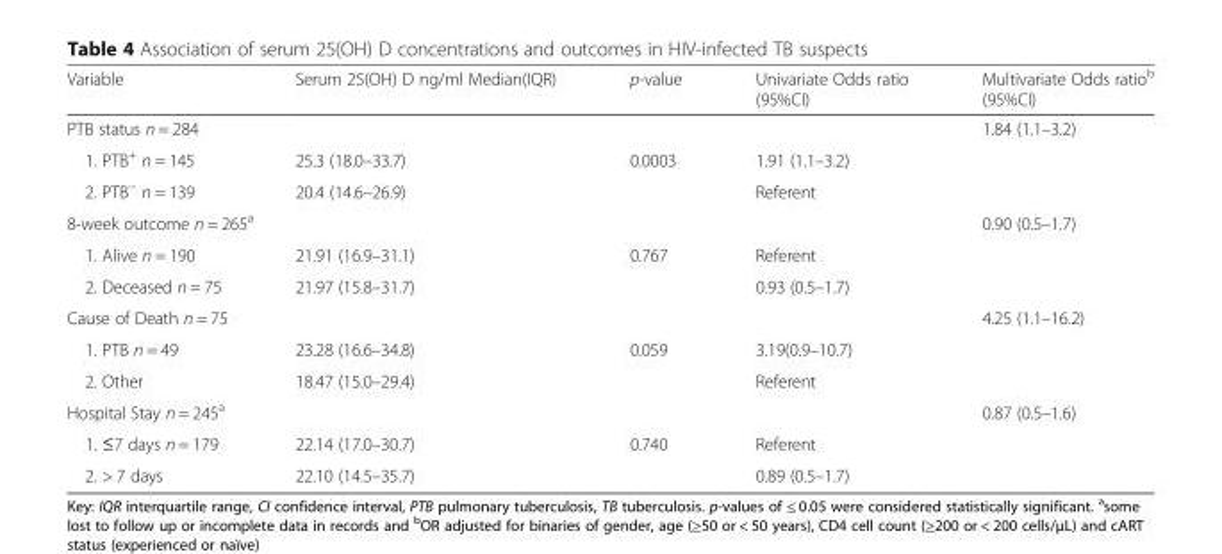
<table><thead><tr><td>Variable</td><td>Serum 25(OH) D ng/ml Median(IQR)</td><td>p-value</td><td>Univariate Odds ratio (95%CI)</td><td>Multivariate Odds ratio<sup>b</sup> (95%CI)</td></tr></thead><tbody><tr><td colspan="4">PTB status n = 284</td><td>1.84 (1.1–3.2)</td></tr><tr><td>1. PTB<sup>+</sup> n = 145</td><td>25.3 (18.0–33.7)</td><td rowspan="2">0.0003</td><td>1.91 (1.1–3.2)</td><td></td></tr><tr><td>2. PTB<sup>−</sup> n = 139</td><td>20.4 (14.6–26.9)</td><td>Referent</td><td></td></tr><tr><td colspan="4">8-week outcome n = 265<sup>a</sup></td><td>0.90 (0.5–1.7)</td></tr><tr><td>1. Alive n = 190</td><td>21.91 (16.9–31.1)</td><td rowspan="2">0.767</td><td>Referent</td><td></td></tr><tr><td>2. Deceased n = 75</td><td>21.97 (15.8–31.7)</td><td>0.93 (0.5–1.7)</td><td></td></tr><tr><td colspan="4">Cause of Death n = 75</td><td>4.25 (1.1–16.2)</td></tr><tr><td>1. PTB n = 49</td><td>23.28 (16.6–34.8)</td><td rowspan="2">0.059</td><td>3.19(0.9–10.7)</td><td></td></tr><tr><td>2. Other</td><td>18.47 (15.0–29.4)</td><td>Referent</td><td></td></tr><tr><td colspan="4">Hospital Stay n = 245<sup>a</sup></td><td>0.87 (0.5–1.6)</td></tr><tr><td>1. ≤7 days n = 179</td><td>22.14 (17.0–30.7)</td><td rowspan="2">0.740</td><td>Referent</td><td></td></tr><tr><td>2. &gt; 7 days</td><td>22.10 (14.5–35.7)</td><td>0.89 (0.5–1.7)</td><td></td></tr></tbody></table>